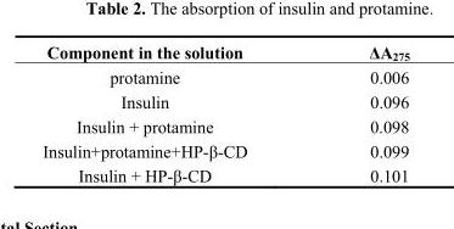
<table><thead><tr><td>Component in the solution</td><td>ΔA<sub>275</sub></td></tr></thead><tbody><tr><td>protamine</td><td>0.006</td></tr><tr><td>Insulin</td><td>0.096</td></tr><tr><td>Insulin + protamine</td><td>0.098</td></tr><tr><td>Insulin+protamine+HP-β-CD</td><td>0.099</td></tr><tr><td>Insulin + HP-β-CD</td><td>0.101</td></tr></tbody></table>